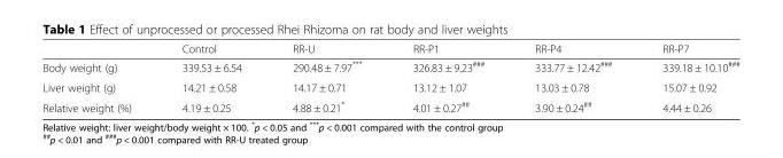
<table><thead><tr><td></td><td>Control</td><td>RR-U</td><td>RR-P1</td><td>RR-P4</td><td>RR-P7</td></tr></thead><tbody><tr><td>Body weight (g)</td><td>339.53 ± 6.54</td><td>290.48 ± 7.97***</td><td>326.83 ± 9.23<sup>###</sup></td><td>333.77 ± 12.42<sup>###</sup></td><td>339.18 ± 10.10<sup>###</sup></td></tr><tr><td>Liver weight (g)</td><td>14.21 ± 0.58</td><td>14.17 ± 0.71</td><td>13.12 ± 1.07</td><td>13.03 ± 0.78</td><td>15.07 ± 0.92</td></tr><tr><td>Relative weight (%)</td><td>4.19 ± 0.25</td><td>4.88 ± 0.21*</td><td>4.01 ± 0.27<sup>##</sup></td><td>3.90 ± 0.24<sup>##</sup></td><td>4.44 ± 0.26</td></tr></tbody></table>